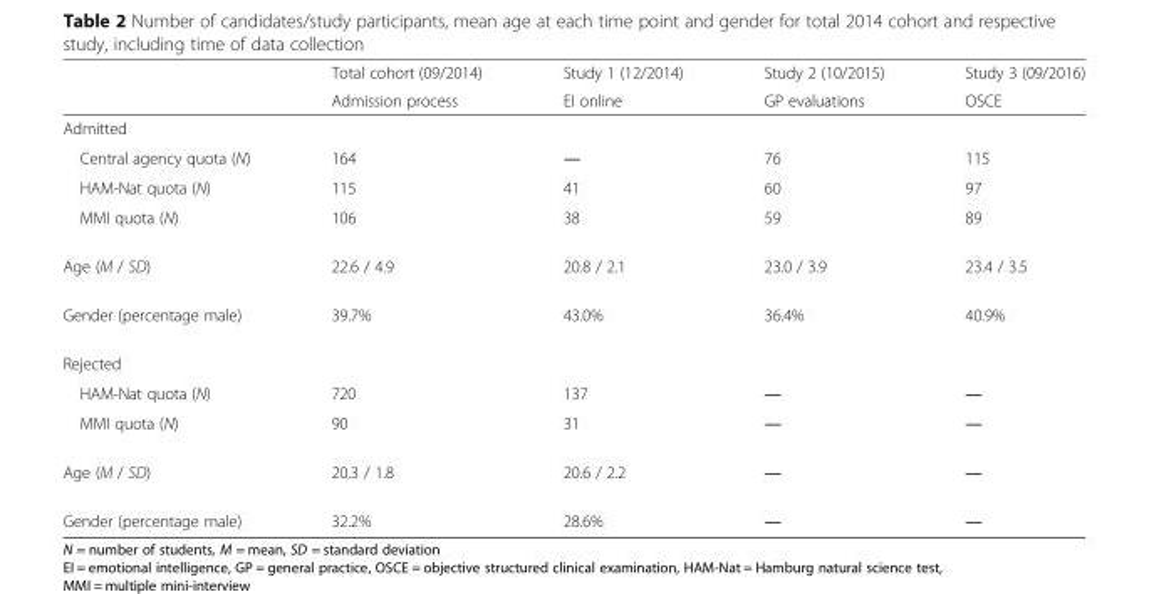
<table><thead><tr><td rowspan="2"></td><td rowspan="2">Total cohort (09/2014) Admission process</td><td rowspan="2">Study 1 (12/2014) EI online</td><td rowspan="2">Study 2 (10/2015) GP evaluations</td><td rowspan="2">Study 3 (09/2016) OSCE</td></tr><tr></tr></thead><tbody><tr><td colspan="5">Admitted</td></tr><tr><td>Central agency quota (N)</td><td>164</td><td>―</td><td>76</td><td>115</td></tr><tr><td>HAM-Nat quota (N)</td><td>115</td><td>41</td><td>60</td><td>97</td></tr><tr><td>MMI quota (N)</td><td>106</td><td>38</td><td>59</td><td>89</td></tr><tr><td>Age (M / SD)</td><td>22.6 / 4.9</td><td>20.8 / 2.1</td><td>23.0 / 3.9</td><td>23.4 / 3.5</td></tr><tr><td>Gender (percentage male)</td><td>39.7%</td><td>43.0%</td><td>36.4%</td><td>40.9%</td></tr><tr><td colspan="5">Rejected</td></tr><tr><td>HAM-Nat quota (N)</td><td>720</td><td>137</td><td>―</td><td>―</td></tr><tr><td>MMI quota (N)</td><td>90</td><td>31</td><td>―</td><td>―</td></tr><tr><td>Age (M / SD)</td><td>20.3 / 1.8</td><td>20.6 / 2.2</td><td>―</td><td>―</td></tr><tr><td>Gender (percentage male)</td><td>32.2%</td><td>28.6%</td><td>―</td><td>―</td></tr></tbody></table>